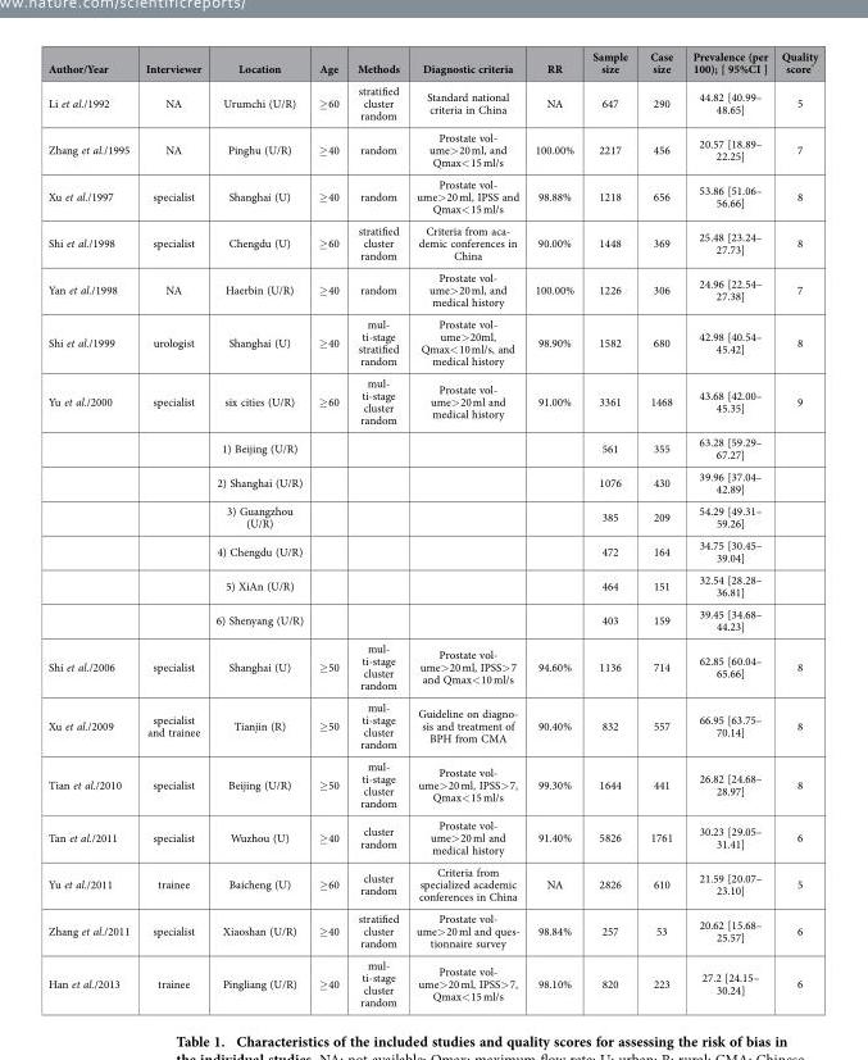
<table><thead><tr><td>Author/Year</td><td>Interviewer</td><td>Location</td><td>Age</td><td>Methods</td><td>Diagnostic criteria</td><td>RR</td><td>Sample size</td><td>Case size</td><td>Prevalence (per 100); [ 95%CI ]</td><td>Quality score*</td></tr></thead><tbody><tr><td>Li et al./1992</td><td>NA</td><td>Urumchi (U/R)</td><td>≥ 60</td><td>stratified cluster random</td><td>Standard national criteria in China</td><td>NA</td><td>647</td><td>290</td><td>44.82 [40.99– 48.65]</td><td>5</td></tr><tr><td>Zhang et al./1995</td><td>NA</td><td>Pinghu (U/R)</td><td>≥ 40</td><td>random</td><td>Prostate vol- ume&gt; 20 ml, and Qmax&lt; 15 ml/s</td><td>100.00%</td><td>2217</td><td>456</td><td>20.57 [18.89– 22.25]</td><td>7</td></tr><tr><td>Xu et al./1997</td><td>specialist</td><td>Shanghai (U)</td><td>≥ 40</td><td>random</td><td>Prostate vol- ume&gt; 20 ml, IPSS and Qmax&lt; 15 ml/s</td><td>98.88%</td><td>1218</td><td>656</td><td>53.86 [51.06– 56.66]</td><td>8</td></tr><tr><td>Shi et al./1998</td><td>specialist</td><td>Chengdu (U)</td><td>≥ 60</td><td>stratified cluster random</td><td>Criteria from aca- demic conferences in China</td><td>90.00%</td><td>1448</td><td>369</td><td>25.48 [23.24– 27.73]</td><td>8</td></tr><tr><td>Yan et al./1998</td><td>NA</td><td>Haerbin (U/R)</td><td>≥ 40</td><td>random</td><td>Prostate vol- ume&gt; 20 ml, and medical history</td><td>100.00%</td><td>1226</td><td>306</td><td>24.96 [22.54– 27.38]</td><td>7</td></tr><tr><td>Shi et al./1999</td><td>urologist</td><td>Shanghai (U)</td><td>≥ 40</td><td>mul- ti-stage stratified random</td><td>Prostate vol- ume&gt; 20ml, Qmax&lt; 10 ml/s, and medical history</td><td>98.90%</td><td>1582</td><td>680</td><td>42.98 [40.54– 45.42]</td><td>8</td></tr><tr><td rowspan="7">Yu et al./2000</td><td>specialist</td><td>six cities (U/R)</td><td>≥ 60</td><td>mul- ti-stage cluster random</td><td>Prostate vol- ume&gt; 20 ml and medical history</td><td>91.00%</td><td>3361</td><td>1468</td><td>43.68 [42.00– 45.35]</td><td>9</td></tr><tr><td></td><td>1) Beijing (U/R)</td><td></td><td></td><td></td><td></td><td>561</td><td>355</td><td>63.28 [59.29– 67.27]</td><td></td></tr><tr><td></td><td>2) Shanghai (U/R)</td><td></td><td></td><td></td><td></td><td>1076</td><td>430</td><td>39.96 [37.04– 42.89]</td><td></td></tr><tr><td></td><td>3) Guangzhou (U/R)</td><td></td><td></td><td></td><td></td><td>385</td><td>209</td><td>54.29 [49.31– 59.26]</td><td></td></tr><tr><td></td><td>4) Chengdu (U/R)</td><td></td><td></td><td></td><td></td><td>472</td><td>164</td><td>34.75 [30.45– 39.04]</td><td></td></tr><tr><td></td><td>5) XiAn (U/R)</td><td></td><td></td><td></td><td></td><td>464</td><td>151</td><td>32.54 [28.28– 36.81]</td><td></td></tr><tr><td></td><td>6) Shenyang (U/R)</td><td></td><td></td><td></td><td></td><td>403</td><td>159</td><td>39.45 [34.68– 44.23]</td><td></td></tr><tr><td>Shi et al./2006</td><td>specialist</td><td>Shanghai (U)</td><td>≥ 50</td><td>mul- ti-stage cluster random</td><td>Prostate vol- ume&gt; 20 ml, IPSS&gt; 7 and Qmax&lt; 10 ml/s</td><td>94.60%</td><td>1136</td><td>714</td><td>62.85 [60.04– 65.66]</td><td>8</td></tr><tr><td>Xu et al./2009</td><td>specialist and trainee</td><td>Tianjin (R)</td><td>≥ 50</td><td>mul- ti-stage cluster random</td><td>Guideline on diagno- sis and treatment of BPH from CMA</td><td>90.40%</td><td>832</td><td>557</td><td>66.95 [63.75– 70.14]</td><td>8</td></tr><tr><td>Tian et al./2010</td><td>specialist</td><td>Beijing (U/R)</td><td>≥ 50</td><td>mul- ti-stage cluster random</td><td>Prostate vol- ume&gt; 20 ml, IPSS&gt; 7, Qmax&lt; 15 ml/s</td><td>99.30%</td><td>1644</td><td>441</td><td>26.82 [24.68– 28.97]</td><td>8</td></tr><tr><td>Tan et al./2011</td><td>specialist</td><td>Wuzhou (U)</td><td>≥ 40</td><td>cluster random</td><td>Prostate vol- ume&gt; 20 ml and medical history</td><td>91.40%</td><td>5826</td><td>1761</td><td>30.23 [29.05– 31.41]</td><td>6</td></tr><tr><td>Yu et al./2011</td><td>trainee</td><td>Baicheng (U)</td><td>≥ 60</td><td>cluster random</td><td>Criteria from specialized academic conferences in China</td><td>NA</td><td>2826</td><td>610</td><td>21.59 [20.07– 23.10]</td><td>5</td></tr><tr><td>Zhang et al./2011</td><td>specialist</td><td>Xiaoshan (U/R)</td><td>≥ 40</td><td>stratified cluster random</td><td>Prostate vol- ume&gt; 20 ml and ques- tionnaire survey</td><td>98.84%</td><td>257</td><td>53</td><td>20.62 [15.68– 25.57]</td><td>6</td></tr><tr><td>Han et al./2013</td><td>trainee</td><td>Pingliang (U/R)</td><td>≥ 40</td><td>mul- ti-stage cluster random</td><td>Prostate vol- ume&gt; 20 ml, IPSS&gt; 7, Qmax&lt; 15 ml/s</td><td>98.10%</td><td>820</td><td>223</td><td>27.2 [24.15– 30.24]</td><td>6</td></tr></tbody></table>